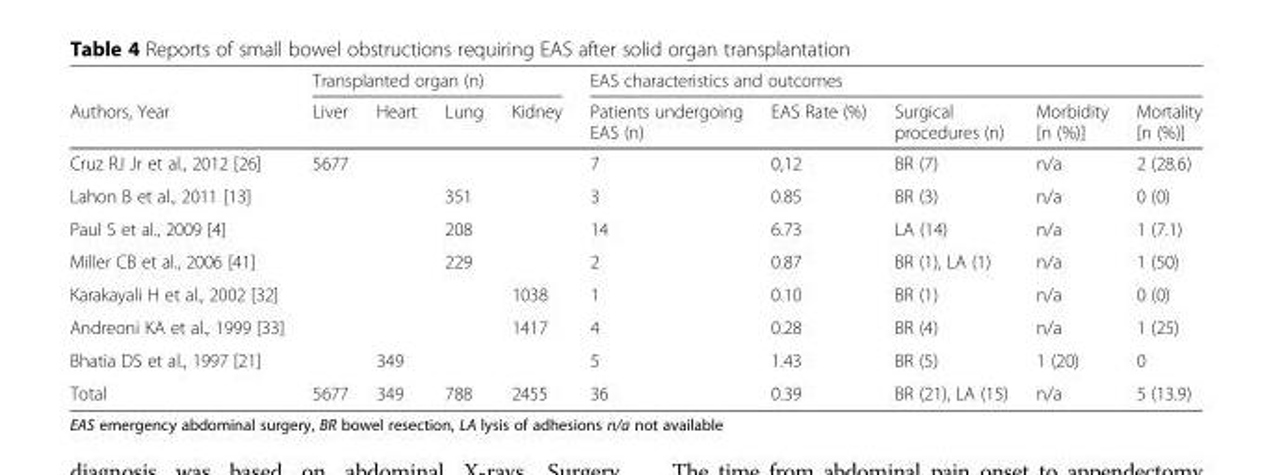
<table><thead><tr><td rowspan="2">Authors, Year</td><td colspan="4">Transplanted organ (n)</td><td colspan="5">EAS characteristics and outcomes</td></tr><tr><td>Liver</td><td>Heart</td><td>Lung</td><td>Kidney</td><td>Patients undergoing EAS (n)</td><td>EAS Rate (%)</td><td>Surgical procedures (n)</td><td>Morbidity [n (%)]</td><td>Mortality [n (%)]</td></tr></thead><tbody><tr><td>Cruz RJ Jr et al., 2012 [26]</td><td>5677</td><td></td><td></td><td></td><td>7</td><td>0,12</td><td>BR (7)</td><td>n/a</td><td>2 (28.6)</td></tr><tr><td>Lahon B et al., 2011 [13]</td><td></td><td></td><td>351</td><td></td><td>3</td><td>0.85</td><td>BR (3)</td><td>n/a</td><td>0 (0)</td></tr><tr><td>Paul S et al., 2009 [4]</td><td></td><td></td><td>208</td><td></td><td>14</td><td>6.73</td><td>LA (14)</td><td>n/a</td><td>1 (7.1)</td></tr><tr><td>Miller CB et al., 2006 [41]</td><td></td><td></td><td>229</td><td></td><td>2</td><td>0.87</td><td>BR (1), LA (1)</td><td>n/a</td><td>1 (50)</td></tr><tr><td>Karakayali H et al., 2002 [32]</td><td></td><td></td><td></td><td>1038</td><td>1</td><td>0.10</td><td>BR (1)</td><td>n/a</td><td>0 (0)</td></tr><tr><td>Andreoni KA et al., 1999 [33]</td><td></td><td></td><td></td><td>1417</td><td>4</td><td>0.28</td><td>BR (4)</td><td>n/a</td><td>1 (25)</td></tr><tr><td>Bhatia DS et al., 1997 [21]</td><td></td><td>349</td><td></td><td></td><td>5</td><td>1.43</td><td>BR (5)</td><td>1 (20)</td><td>0</td></tr><tr><td>Total</td><td>5677</td><td>349</td><td>788</td><td>2455</td><td>36</td><td>0.39</td><td>BR (21), LA (15)</td><td>n/a</td><td>5 (13.9)</td></tr></tbody></table>